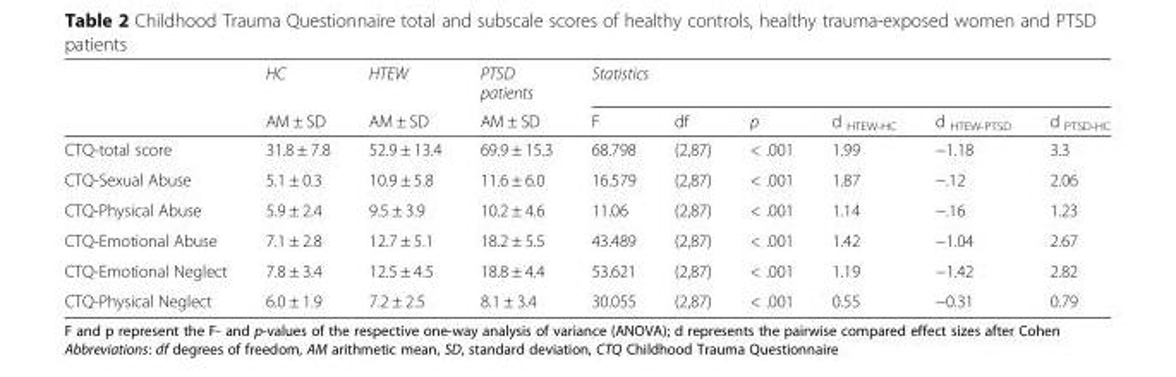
<table><thead><tr><td rowspan="2"></td><td rowspan="2">HC AM ± SD</td><td rowspan="2">HTEW AM ± SD</td><td rowspan="2">PTSD patients AM ± SD</td><td colspan="6">Statistics</td></tr><tr><td>F</td><td>df</td><td>p</td><td>d <sub>HTEW-HC</sub></td><td>d <sub>HTEW-PTSD</sub></td><td>d <sub>PTSD-HC</sub></td></tr></thead><tbody><tr><td>CTQ-total score</td><td>31.8 ± 7.8</td><td>52.9 ± 13.4</td><td>69.9 ± 15.3</td><td>68.798</td><td>(2,87)</td><td>&lt; .001</td><td>1.99</td><td>−1.18</td><td>3.3</td></tr><tr><td>CTQ-Sexual Abuse</td><td>5.1 ± 0.3</td><td>10.9 ± 5.8</td><td>11.6 ± 6.0</td><td>16.579</td><td>(2,87)</td><td>&lt; .001</td><td>1.87</td><td>−.12</td><td>2.06</td></tr><tr><td>CTQ-Physical Abuse</td><td>5.9 ± 2.4</td><td>9.5 ± 3.9</td><td>10.2 ± 4.6</td><td>11.06</td><td>(2,87)</td><td>&lt; .001</td><td>1.14</td><td>−.16</td><td>1.23</td></tr><tr><td>CTQ-Emotional Abuse</td><td>7.1 ± 2.8</td><td>12.7 ± 5.1</td><td>18.2 ± 5.5</td><td>43.489</td><td>(2,87)</td><td>&lt; .001</td><td>1.42</td><td>−1.04</td><td>2.67</td></tr><tr><td>CTQ-Emotional Neglect</td><td>7.8 ± 3.4</td><td>12.5 ± 4.5</td><td>18.8 ± 4.4</td><td>53.621</td><td>(2,87)</td><td>&lt; .001</td><td>1.19</td><td>−1.42</td><td>2.82</td></tr><tr><td>CTQ-Physical Neglect</td><td>6.0 ± 1.9</td><td>7.2 ± 2.5</td><td>8.1 ± 3.4</td><td>30.055</td><td>(2,87)</td><td>&lt; .001</td><td>0.55</td><td>−0.31</td><td>0.79</td></tr></tbody></table>